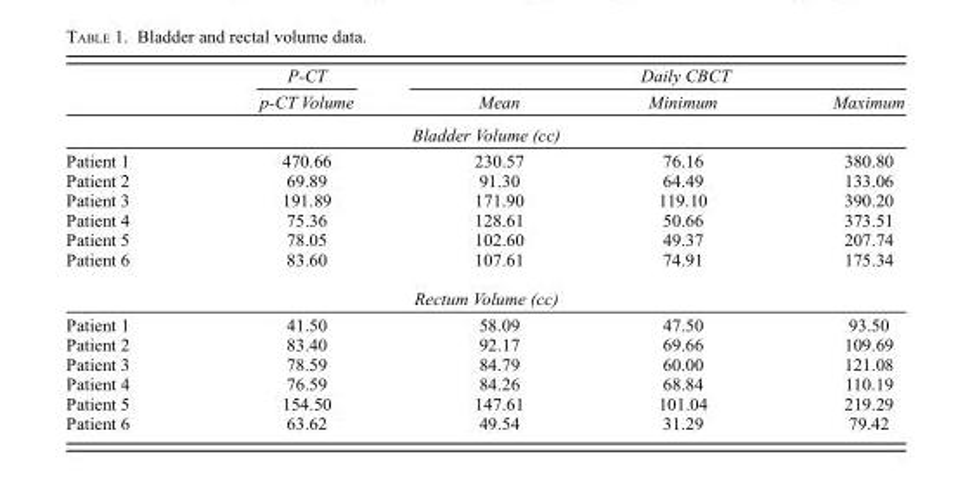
<table><thead><tr><td colspan="2">P-CT</td><td colspan="3">Daily CBCT</td></tr><tr><td></td><td>p-CT Volume</td><td>Mean</td><td>Minimum</td><td>Maximum</td></tr></thead><tbody><tr><td colspan="5">Bladder Volume (cc)</td></tr><tr><td>Patient 1</td><td>470.66</td><td>230.57</td><td>76.16</td><td>380.80</td></tr><tr><td>Patient 2</td><td>69.89</td><td>91.30</td><td>64.49</td><td>133.06</td></tr><tr><td>Patient 3</td><td>191.89</td><td>171.90</td><td>119.10</td><td>390.20</td></tr><tr><td>Patient 4</td><td>75.36</td><td>128.61</td><td>50.66</td><td>373.51</td></tr><tr><td>Patient 5</td><td>78.05</td><td>102.60</td><td>49.37</td><td>207.74</td></tr><tr><td>Patient 6</td><td>83.60</td><td>107.61</td><td>74.91</td><td>175.34</td></tr><tr><td colspan="5">Rectum Volume (cc)</td></tr><tr><td>Patient 1</td><td>41.50</td><td>58.09</td><td>47.50</td><td>93.50</td></tr><tr><td>Patient 2</td><td>83.40</td><td>92.17</td><td>69.66</td><td>109.69</td></tr><tr><td>Patient 3</td><td>78.59</td><td>84.79</td><td>60.00</td><td>121.08</td></tr><tr><td>Patient 4</td><td>76.59</td><td>84.26</td><td>68.84</td><td>110.19</td></tr><tr><td>Patient 5</td><td>154.50</td><td>147.61</td><td>101.04</td><td>219.29</td></tr><tr><td>Patient 6</td><td>63.62</td><td>49.54</td><td>31.29</td><td>79.42</td></tr></tbody></table>